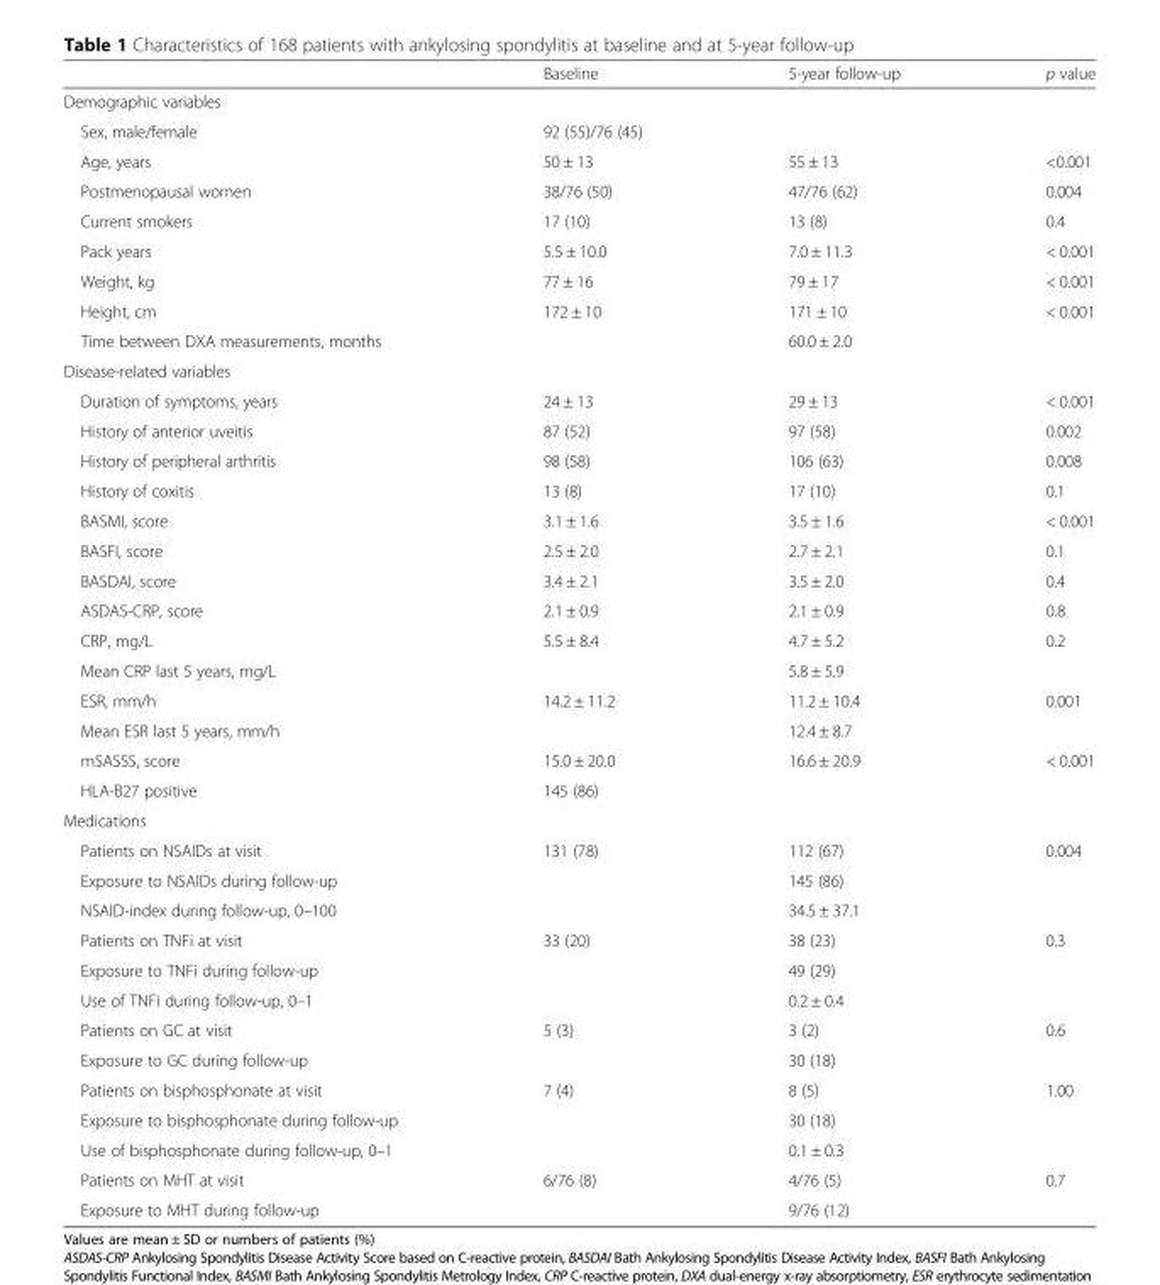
<table><thead><tr><td></td><td>Baseline</td><td>5-year follow-up</td><td>p value</td></tr></thead><tbody><tr><td colspan="4">Demographic variables</td></tr><tr><td>Sex, male/female</td><td>92 (55)/76 (45)</td><td></td><td></td></tr><tr><td>Age, years</td><td>50 ± 13</td><td>55 ± 13</td><td>&lt;0.001</td></tr><tr><td>Postmenopausal women</td><td>38/76 (50)</td><td>47/76 (62)</td><td>0.004</td></tr><tr><td>Current smokers</td><td>17 (10)</td><td>13 (8)</td><td>0.4</td></tr><tr><td>Pack years</td><td>5.5 ± 10.0</td><td>7.0 ± 11.3</td><td>&lt; 0.001</td></tr><tr><td>Weight, kg</td><td>77 ± 16</td><td>79 ± 17</td><td>&lt; 0.001</td></tr><tr><td>Height, cm</td><td>172 ± 10</td><td>171 ± 10</td><td>&lt; 0.001</td></tr><tr><td>Time between DXA measurements, months</td><td></td><td>60.0 ± 2.0</td><td></td></tr><tr><td colspan="4">Disease-related variables</td></tr><tr><td>Duration of symptoms, years</td><td>24 ± 13</td><td>29 ± 13</td><td>&lt; 0.001</td></tr><tr><td>History of anterior uveitis</td><td>87 (52)</td><td>97 (58)</td><td>0.002</td></tr><tr><td>History of peripheral arthritis</td><td>98 (58)</td><td>106 (63)</td><td>0.008</td></tr><tr><td>History of coxitis</td><td>13 (8)</td><td>17 (10)</td><td>0.1</td></tr><tr><td>BASMI, score</td><td>3.1 ± 1.6</td><td>3.5 ± 1.6</td><td>&lt; 0.001</td></tr><tr><td>BASFI, score</td><td>2.5 ± 2.0</td><td>2.7 ± 2.1</td><td>0.1</td></tr><tr><td>BASDAI, score</td><td>3.4 ± 2.1</td><td>3.5 ± 2.0</td><td>0.4</td></tr><tr><td>ASDAS-CRP, score</td><td>2.1 ± 0.9</td><td>2.1 ± 0.9</td><td>0.8</td></tr><tr><td>CRP, mg/L</td><td>5.5 ± 8.4</td><td>4.7 ± 5.2</td><td>0.2</td></tr><tr><td>Mean CRP last 5 years, mg/L</td><td></td><td>5.8 ± 5.9</td><td></td></tr><tr><td>ESR, mm/h</td><td>14.2 ± 11.2</td><td>11.2 ± 10.4</td><td>0.001</td></tr><tr><td>Mean ESR last 5 years, mm/h</td><td></td><td>12.4 ± 8.7</td><td></td></tr><tr><td>mSASSS, score</td><td>15.0 ± 20.0</td><td>16.6 ± 20.9</td><td>&lt; 0.001</td></tr><tr><td>HLA-B27 positive</td><td>145 (86)</td><td></td><td></td></tr><tr><td colspan="4">Medications</td></tr><tr><td>Patients on NSAIDs at visit</td><td>131 (78)</td><td>112 (67)</td><td>0.004</td></tr><tr><td>Exposure to NSAIDs during follow-up</td><td></td><td>145 (86)</td><td rowspan="2"></td></tr><tr><td>NSAID-index during follow-up, 0–100</td><td></td><td>34.5 ± 37.1</td></tr><tr><td>Patients on TNFi at visit</td><td>33 (20)</td><td>38 (23)</td><td>0.3</td></tr><tr><td>Exposure to TNFi during follow-up</td><td></td><td>49 (29)</td><td rowspan="2"></td></tr><tr><td>Use of TNFi during follow-up, 0–1</td><td></td><td>0.2 ± 0.4</td></tr><tr><td>Patients on GC at visit</td><td>5 (3)</td><td>3 (2)</td><td>0.6</td></tr><tr><td>Exposure to GC during follow-up</td><td></td><td>30 (18)</td><td></td></tr><tr><td>Patients on bisphosphonate at visit</td><td>7 (4)</td><td>8 (5)</td><td>1.00</td></tr><tr><td>Exposure to bisphosphonate during follow-up</td><td></td><td>30 (18)</td><td rowspan="2"></td></tr><tr><td>Use of bisphosphonate during follow-up, 0–1</td><td></td><td>0.1 ± 0.3</td></tr><tr><td>Patients on MHT at visit</td><td>6/76 (8)</td><td>4/76 (5)</td><td>0.7</td></tr><tr><td>Exposure to MHT during follow-up</td><td></td><td>9/76 (12)</td><td></td></tr></tbody></table>